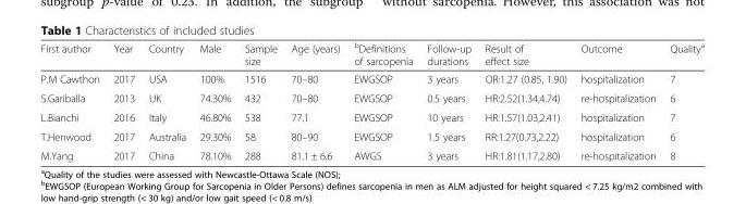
<table><thead><tr><td>First author</td><td>Year</td><td>Country</td><td>Male</td><td>Sample size</td><td>Age (years)</td><td><sup>b</sup>Definitions of sarcopenia</td><td>Follow-up durations</td><td>Result of effect size</td><td>Outcome</td><td>Quality<sup>a</sup></td></tr></thead><tbody><tr><td>P.M Cawthon</td><td>2017</td><td>USA</td><td>100%</td><td>1516</td><td>70–80</td><td>EWGSOP</td><td>3 years</td><td>OR:1.27 (0.85, 1.90)</td><td>hospitalization</td><td>7</td></tr><tr><td>S.Gariballa</td><td>2013</td><td>UK</td><td>74.30%</td><td>432</td><td>70–80</td><td>EWGSOP</td><td>0.5 years</td><td>HR:2.52(1.34,4.74)</td><td>re-hospitalization</td><td>6</td></tr><tr><td>L.Bianchi</td><td>2016</td><td>Italy</td><td>46.80%</td><td>538</td><td>77.1</td><td>EWGSOP</td><td>10 years</td><td>HR:1.57(1.03,2.41)</td><td>hospitalization</td><td>7</td></tr><tr><td>T.Henwood</td><td>2017</td><td>Australia</td><td>29.30%</td><td>58</td><td>80–90</td><td>EWGSOP</td><td>1.5 years</td><td>RR:1.27(0.73,2.22)</td><td>hospitalization</td><td>6</td></tr><tr><td>M.Yang</td><td>2017</td><td>China</td><td>78.10%</td><td>288</td><td>81.1 ± 6.6</td><td>AWGS</td><td>3 years</td><td>HR:1.81(1.17,2.80)</td><td>re-hospitalization</td><td>8</td></tr></tbody></table>